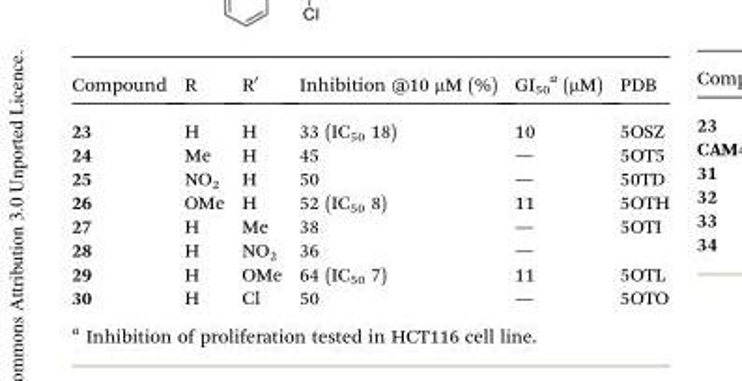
<table><thead><tr><td>Compound</td><td>R</td><td>R′</td><td>Inhibition @10 μM (%)</td><td>GI<sub>50</sub> <sup>a</sup> (μM)</td><td>PDB</td></tr></thead><tbody><tr><td>23</td><td>H</td><td>H</td><td>33 (IC<sub>50</sub> 18)</td><td>10</td><td>5OSZ</td></tr><tr><td>24</td><td>Me</td><td>H</td><td>45</td><td>—</td><td>5OT5</td></tr><tr><td>25</td><td>NO<sub>2</sub></td><td>H</td><td>50</td><td>—</td><td>50TD</td></tr><tr><td>26</td><td>OMe</td><td>H</td><td>52 (IC<sub>50</sub> 8)</td><td>11</td><td>5OTH</td></tr><tr><td>27</td><td>H</td><td>Me</td><td>38</td><td>—</td><td>5OTI</td></tr><tr><td>28</td><td>H</td><td>NO<sub>2</sub></td><td>36</td><td>—</td><td></td></tr><tr><td>29</td><td>H</td><td>OMe</td><td>64 (IC<sub>50</sub> 7)</td><td>11</td><td>5OTL</td></tr><tr><td>30</td><td>H</td><td>Cl</td><td>50</td><td>—</td><td>5OTO</td></tr></tbody></table>